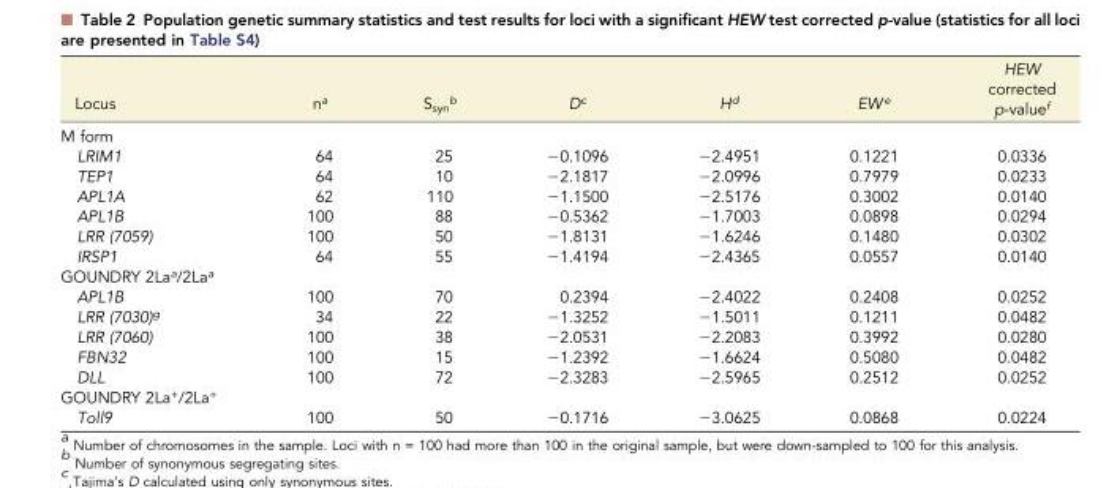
<table><thead><tr><td>Locus</td><td>n<sup>a</sup></td><td>S<sub>syn</sub><sup>b</sup></td><td>D<sup>c</sup></td><td>H<sup>d</sup></td><td>EW <sup>e</sup></td><td>HEW corrected p-value<sup>f</sup></td></tr></thead><tbody><tr><td colspan="7">M form</td></tr><tr><td>LRIM1</td><td>64</td><td>25</td><td>−0.1096</td><td>−2.4951</td><td>0.1221</td><td>0.0336</td></tr><tr><td>TEP1</td><td>64</td><td>10</td><td>−2.1817</td><td>−2.0996</td><td>0.7979</td><td>0.0233</td></tr><tr><td>APL1A</td><td>62</td><td>110</td><td>−1.1500</td><td>−2.5176</td><td>0.3002</td><td>0.0140</td></tr><tr><td>APL1B</td><td>100</td><td>88</td><td>−0.5362</td><td>−1.7003</td><td>0.0898</td><td>0.0294</td></tr><tr><td>LRR (7059)</td><td>100</td><td>50</td><td>−1.8131</td><td>−1.6246</td><td>0.1480</td><td>0.0302</td></tr><tr><td>IRSP1</td><td>64</td><td>55</td><td>−1.4194</td><td>−2.4365</td><td>0.0557</td><td>0.0140</td></tr><tr><td colspan="7">GOUNDRY 2La<sup>a</sup>/2La<sup>a</sup></td></tr><tr><td>APL1B</td><td>100</td><td>70</td><td>0.2394</td><td>−2.4022</td><td>0.2408</td><td>0.0252</td></tr><tr><td>LRR (7030)<sup>g</sup></td><td>34</td><td>22</td><td>−1.3252</td><td>−1.5011</td><td>0.1211</td><td>0.0482</td></tr><tr><td>LRR (7060)</td><td>100</td><td>38</td><td>−2.0531</td><td>−2.2083</td><td>0.3992</td><td>0.0280</td></tr><tr><td>FBN32</td><td>100</td><td>15</td><td>−1.2392</td><td>−1.6624</td><td>0.5080</td><td>0.0482</td></tr><tr><td>DLL</td><td>100</td><td>72</td><td>−2.3283</td><td>−2.5965</td><td>0.2512</td><td>0.0252</td></tr><tr><td colspan="7">GOUNDRY 2La<sup>+</sup>/2La<sup>+</sup></td></tr><tr><td>Toll9</td><td>100</td><td>50</td><td>−0.1716</td><td>−3.0625</td><td>0.0868</td><td>0.0224</td></tr></tbody></table>